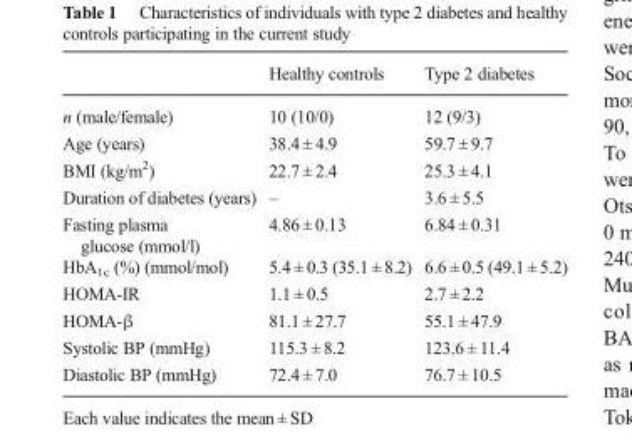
<table><thead><tr><td></td><td>Healthy controls</td><td>Type 2 diabetes</td></tr></thead><tbody><tr><td>n (male/female)</td><td>10 (10/0)</td><td>12 (9/3)</td></tr><tr><td>Age (years)</td><td>38.4 ± 4.9</td><td>59.7 ± 9.7</td></tr><tr><td>BMI (kg/m<sup>2</sup>)</td><td>22.7 ± 2.4</td><td>25.3 ± 4.1</td></tr><tr><td>Duration of diabetes (years)</td><td>–</td><td>3.6 ± 5.5</td></tr><tr><td>Fasting plasma glucose (mmol/l)</td><td>4.86 ± 0.13</td><td>6.84 ± 0.31</td></tr><tr><td>HbA<sub>1c</sub> (%) (mmol/mol)</td><td>5.4 ± 0.3 (35.1 ± 8.2)</td><td>6.6 ± 0.5 (49.1 ± 5.2)</td></tr><tr><td>HOMA-IR</td><td>1.1 ± 0.5</td><td>2.7 ± 2.2</td></tr><tr><td>HOMA-β</td><td>81.1 ± 27.7</td><td>55.1 ± 47.9</td></tr><tr><td>Systolic BP (mmHg)</td><td>115.3 ± 8.2</td><td>123.6 ± 11.4</td></tr><tr><td>Diastolic BP (mmHg)</td><td>72.4 ± 7.0</td><td>76.7 ± 10.5</td></tr></tbody></table>